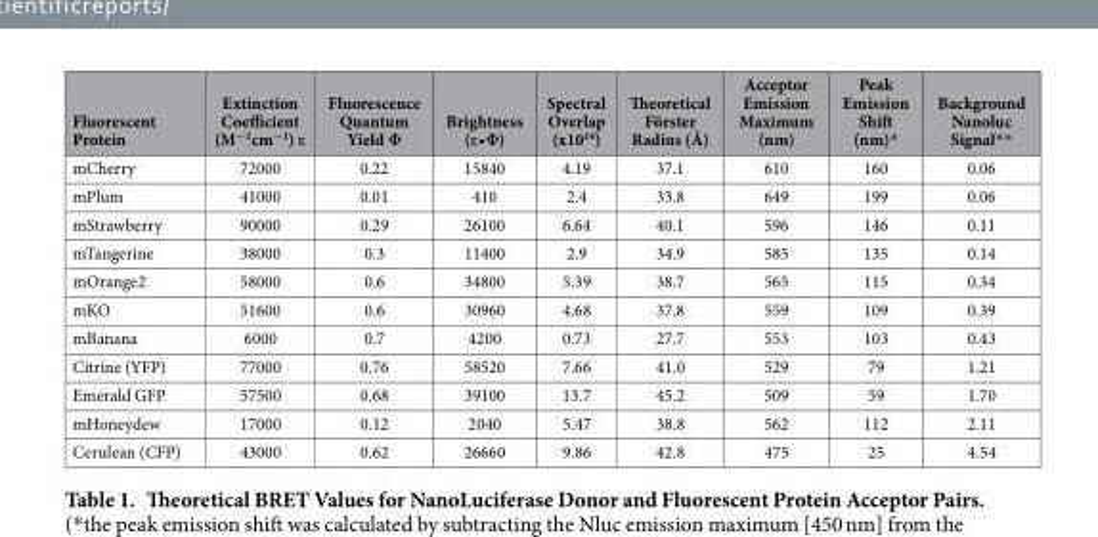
<table><thead><tr><td>Fluorescent Protein</td><td>Extinction Coefficient (M<sup>−1</sup>cm<sup>−1</sup>) ε</td><td>Fluorescence Quantum Yield Φ</td><td>Brightness (ε•Φ)</td><td>Spectral Overlap (x10<sup>14</sup>)</td><td>Theoretical Förster Radius (Å)</td><td>Acceptor Emission Maximum (nm)</td><td>Peak Emission Shift (nm)*</td><td>Background Nanoluc Signal**</td></tr></thead><tbody><tr><td>mCherry</td><td>72000</td><td>0.22</td><td>15840</td><td>4.19</td><td>37.1</td><td>610</td><td>160</td><td>0.06</td></tr><tr><td>mPlum</td><td>41000</td><td>0.01</td><td>410</td><td>2.4</td><td>33.8</td><td>649</td><td>199</td><td>0.06</td></tr><tr><td>mStrawberry</td><td>90000</td><td>0.29</td><td>26100</td><td>6.64</td><td>40.1</td><td>596</td><td>146</td><td>0.11</td></tr><tr><td>mTangerine</td><td>38000</td><td>0.3</td><td>11400</td><td>2.9</td><td>34.9</td><td>585</td><td>135</td><td>0.14</td></tr><tr><td>mOrange2</td><td>58000</td><td>0.6</td><td>34800</td><td>5.39</td><td>38.7</td><td>565</td><td>115</td><td>0.34</td></tr><tr><td>mKO</td><td>51600</td><td>0.6</td><td>30960</td><td>4.68</td><td>37.8</td><td>559</td><td>109</td><td>0.39</td></tr><tr><td>mBanana</td><td>6000</td><td>0.7</td><td>4200</td><td>0.73</td><td>27.7</td><td>553</td><td>103</td><td>0.43</td></tr><tr><td>Citrine (YFP)</td><td>77000</td><td>0.76</td><td>58520</td><td>7.66</td><td>41.0</td><td>529</td><td>79</td><td>1.21</td></tr><tr><td>Emerald GFP</td><td>57500</td><td>0.68</td><td>39100</td><td>13.7</td><td>45.2</td><td>509</td><td>59</td><td>1.70</td></tr><tr><td>mHoneydew</td><td>17000</td><td>0.12</td><td>2040</td><td>5.47</td><td>38.8</td><td>562</td><td>112</td><td>2.11</td></tr><tr><td>Cerulean (CFP)</td><td>43000</td><td>0.62</td><td>26660</td><td>9.86</td><td>42.8</td><td>475</td><td>25</td><td>4.54</td></tr></tbody></table>